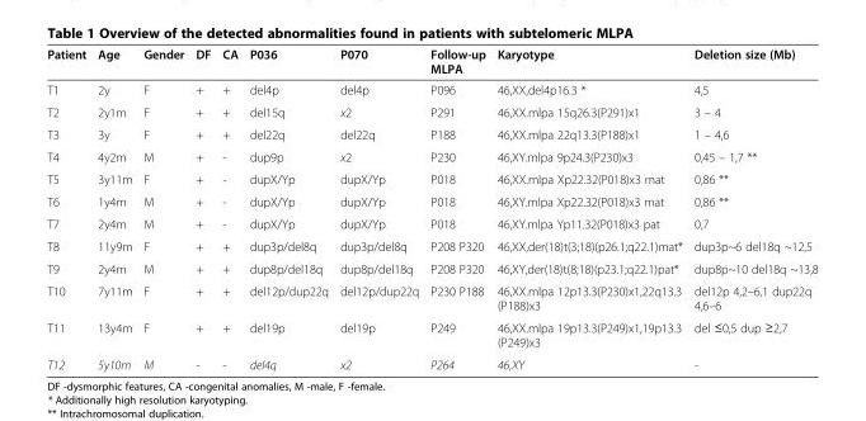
<table><thead><tr><td>Patient</td><td>Age</td><td>Gender</td><td>DF</td><td>CA</td><td>P036</td><td>P070</td><td>Follow-up MLPA</td><td>Karyotype</td><td>Deletion size (Mb)</td></tr></thead><tbody><tr><td>T1</td><td>2y</td><td>F</td><td>+</td><td>+</td><td>del4p</td><td>del4p</td><td>P096</td><td>46,XX,del4p16.3 *</td><td>4,5</td></tr><tr><td>T2</td><td>2y1m</td><td>F</td><td>+</td><td>+</td><td>del15q</td><td>x2</td><td>P291</td><td>46,XX.mlpa 15q26.3(P291)x1</td><td>3 – 4</td></tr><tr><td>T3</td><td>3y</td><td>F</td><td>+</td><td>+</td><td>del22q</td><td>del22q</td><td>P188</td><td>46,XX.mlpa 22q13.3(P188)x1</td><td>1 – 4,6</td></tr><tr><td>T4</td><td>4y2m</td><td>M</td><td>+</td><td>-</td><td>dup9p</td><td>x2</td><td>P230</td><td>46,XY.mlpa 9p24.3(P230)x3</td><td>0,45 – 1,7 **</td></tr><tr><td>T5</td><td>3y11m</td><td>F</td><td>+</td><td>-</td><td>dupX/Yp</td><td>dupX/Yp</td><td>P018</td><td>46,XX.mlpa Xp22.32(P018)x3 mat</td><td>0,86 **</td></tr><tr><td>T6</td><td>1y4m</td><td>M</td><td>+</td><td>-</td><td>dupX/Yp</td><td>dupX/Yp</td><td>P018</td><td>46,XY.mlpa Xp22.32(P018)x3 mat</td><td>0,86 **</td></tr><tr><td>T7</td><td>2y4m</td><td>M</td><td>+</td><td>-</td><td>dupX/Yp</td><td>dupX/Yp</td><td>P018</td><td>46,XY.mlpa Yp11.32(P018)x3 pat</td><td>0,7</td></tr><tr><td>T8</td><td>11y9m</td><td>F</td><td>+</td><td>+</td><td>dup3p/del8q</td><td>dup3p/del8q</td><td>P208 P320</td><td>46,XX,der(18)t(3;18)(p26.1;q22.1)mat*</td><td>dup3p~6 del18q ~12,5</td></tr><tr><td>T9</td><td>2y4m</td><td>M</td><td>+</td><td>+</td><td>dup8p/del18q</td><td>dup8p/del18q</td><td>P208 P320</td><td>46,XY,der(18)t(8;18)(p23.1;q22.1)pat*</td><td>dup8p~10 del18q ~13,8</td></tr><tr><td>T10</td><td>7y11m</td><td>F</td><td>+</td><td>+</td><td>del12p/dup22q</td><td>del12p/dup22q</td><td>P230 P188</td><td>46,XX.mlpa 12p13.3(P230)x1,22q13.3 (P188)x3</td><td>del12p 4,2–6,1 dup22q 4,6–6</td></tr><tr><td>T11</td><td>13y4m</td><td>F</td><td>+</td><td>+</td><td>del19p</td><td>del19p</td><td>P249</td><td>46,XX.mlpa 19p13.3(P249)x1,19p13.3 (P249)x3</td><td>del ≤0,5 dup ≥2,7</td></tr><tr><td>T12</td><td>5y10m</td><td>M</td><td>-</td><td>-</td><td>del4q</td><td>x2</td><td>P264</td><td>46,XY</td><td>-</td></tr></tbody></table>